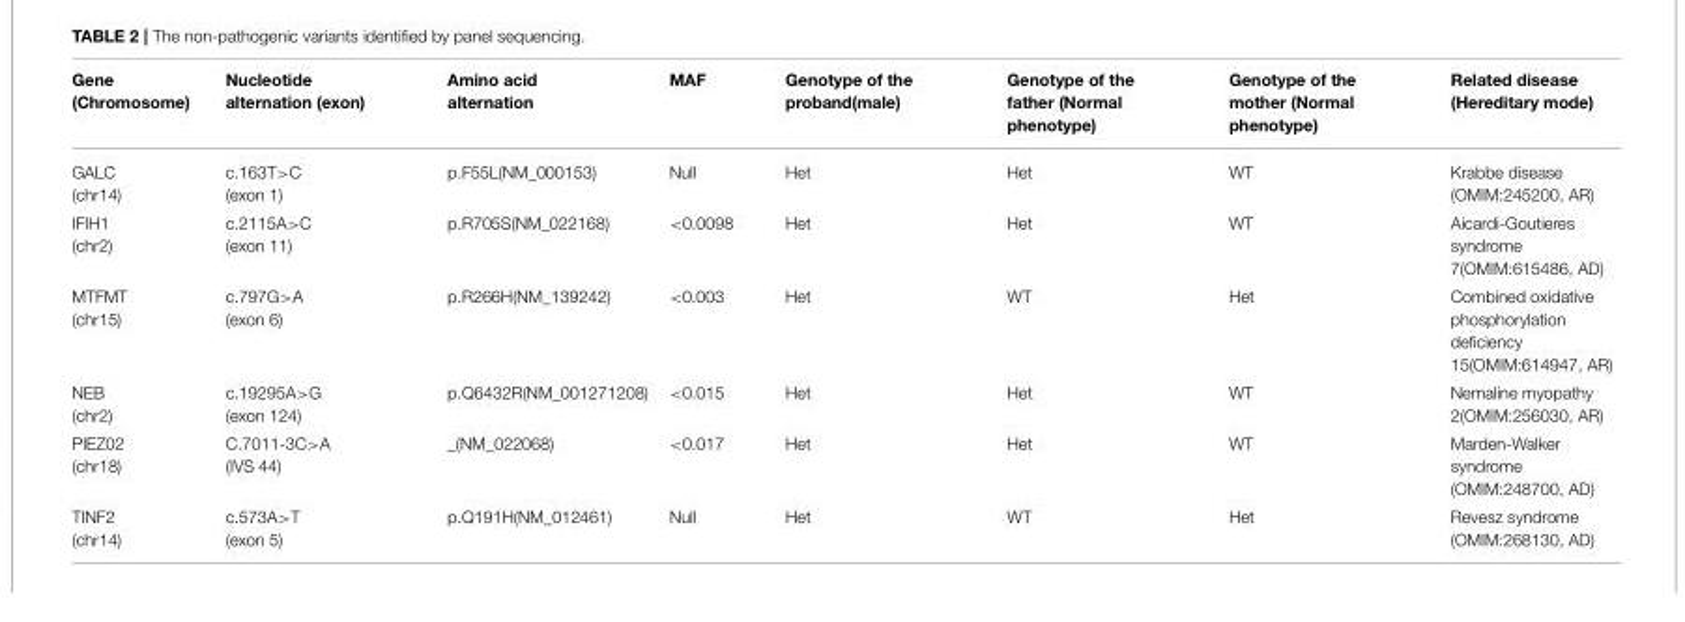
<table><thead><tr><td>Gene (Chromosome)</td><td>Nucleotide alternation (exon)</td><td>Amino acid alternation</td><td>MAF</td><td>Genotype of the proband(male)</td><td>Genotype of the father (Normal phenotype)</td><td>Genotype of the mother (Normal phenotype)</td><td>Related disease (Hereditary mode)</td></tr></thead><tbody><tr><td>GALC (chr14)</td><td>c.163T&gt;C (exon 1)</td><td>p.F55L(NM_000153)</td><td>Null</td><td>Het</td><td>Het</td><td>WT</td><td>Krabbe disease (OMIM:245200, AR)</td></tr><tr><td>IFIH1 (chr2)</td><td>c.2115A&gt;C (exon 11)</td><td>p.R705S(NM_022168)</td><td>&lt;0.0098</td><td>Het</td><td>Het</td><td>WT</td><td>Aicardi-Goutieres syndrome 7(OMIM:615486, AD)</td></tr><tr><td>MTFMT (chr15)</td><td>c.797G&gt;A (exon 6)</td><td>p.R266H(NM_139242)</td><td>&lt;0.003</td><td>Het</td><td>WT</td><td>Het</td><td>Combined oxidative phosphorylation deficiency 15(OMIM:614947, AR)</td></tr><tr><td>NEB (chr2)</td><td>c.19295A&gt;G (exon 124)</td><td>p.Q6432R(NM_001271208)</td><td>&lt;0.015</td><td>Het</td><td>Het</td><td>WT</td><td>Nemaline myopathy 2(OMIM:256030, AR)</td></tr><tr><td>PIEZ02 (chr18)</td><td>C.7011-3C&gt;A (IVS 44)</td><td>_(NM_022068)</td><td>&lt;0.017</td><td>Het</td><td>Het</td><td>WT</td><td>Marden-Walker syndrome (OMIM:248700, AD)</td></tr><tr><td>TINF2 (chr14)</td><td>c.573A&gt;T (exon 5)</td><td>p.Q191H(NM_012461)</td><td>Null</td><td>Het</td><td>WT</td><td>Het</td><td>Revesz syndrome (OMIM:268130, AD)</td></tr></tbody></table>